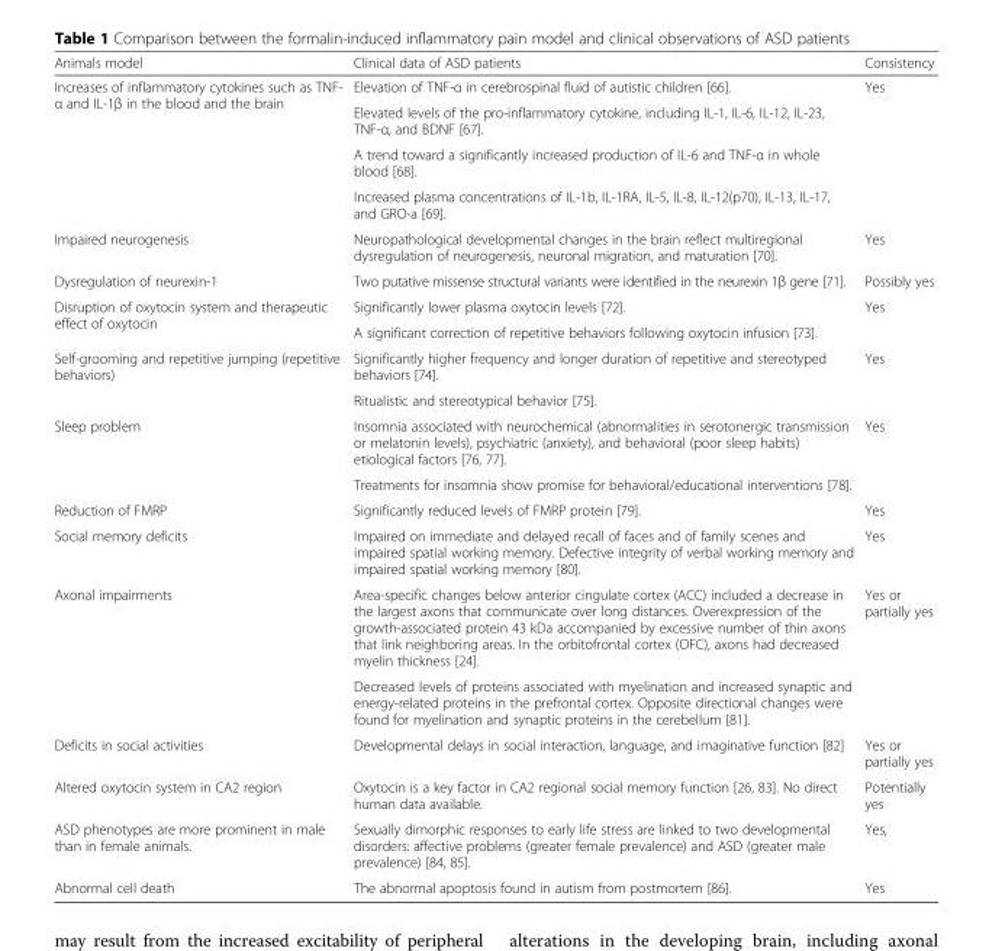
<table><thead><tr><td>Animals model</td><td>Clinical data of ASD patients</td><td>Consistency</td></tr></thead><tbody><tr><td rowspan="4">Increases of inflammatory cytokines such as TNF- α and IL-1β in the blood and the brain</td><td>Elevation of TNF-α in cerebrospinal fluid of autistic children [66].</td><td rowspan="4">Yes</td></tr><tr><td>Elevated levels of the pro-inflammatory cytokine, including IL-1, IL-6, IL-12, IL-23, TNF-α, and BDNF [67].</td></tr><tr><td>A trend toward a significantly increased production of IL-6 and TNF-α in whole blood [68].</td></tr><tr><td>Increased plasma concentrations of IL-1b, IL-1RA, IL-5, IL-8, IL-12(p70), IL-13, IL-17, and GRO-a [69].</td></tr><tr><td>Impaired neurogenesis</td><td>Neuropathological developmental changes in the brain reflect multiregional dysregulation of neurogenesis, neuronal migration, and maturation [70].</td><td>Yes</td></tr><tr><td>Dysregulation of neurexin-1</td><td>Two putative missense structural variants were identified in the neurexin 1β gene [71].</td><td>Possibly yes</td></tr><tr><td rowspan="2">Disruption of oxytocin system and therapeutic effect of oxytocin</td><td>Significantly lower plasma oxytocin levels [72].</td><td rowspan="2">Yes</td></tr><tr><td>A significant correction of repetitive behaviors following oxytocin infusion [73].</td></tr><tr><td rowspan="2">Self-grooming and repetitive jumping (repetitive behaviors)</td><td>Significantly higher frequency and longer duration of repetitive and stereotyped behaviors [74].</td><td rowspan="2">Yes</td></tr><tr><td>Ritualistic and stereotypical behavior [75].</td></tr><tr><td rowspan="2">Sleep problem</td><td>Insomnia associated with neurochemical (abnormalities in serotonergic transmission or melatonin levels), psychiatric (anxiety), and behavioral (poor sleep habits) etiological factors [76, 77].</td><td rowspan="2">Yes</td></tr><tr><td>Treatments for insomnia show promise for behavioral/educational interventions [78].</td></tr><tr><td>Reduction of FMRP</td><td>Significantly reduced levels of FMRP protein [79].</td><td>Yes</td></tr><tr><td>Social memory deficits</td><td>Impaired on immediate and delayed recall of faces and of family scenes and impaired spatial working memory. Defective integrity of verbal working memory and impaired spatial working memory [80].</td><td>Yes</td></tr><tr><td rowspan="2">Axonal impairments</td><td>Area-specific changes below anterior cingulate cortex (ACC) included a decrease in the largest axons that communicate over long distances. Overexpression of the growth-associated protein 43 kDa accompanied by excessive number of thin axons that link neighboring areas. In the orbitofrontal cortex (OFC), axons had decreased myelin thickness [24].</td><td rowspan="2">Yes or partially yes</td></tr><tr><td>Decreased levels of proteins associated with myelination and increased synaptic and energy-related proteins in the prefrontal cortex. Opposite directional changes were found for myelination and synaptic proteins in the cerebellum [81].</td></tr><tr><td>Deficits in social activities</td><td>Developmental delays in social interaction, language, and imaginative function [82]</td><td>Yes or partially yes</td></tr><tr><td>Altered oxytocin system in CA2 region</td><td>Oxytocin is a key factor in CA2 regional social memory function [26, 83]. No direct human data available.</td><td>Potentially yes</td></tr><tr><td>ASD phenotypes are more prominent in male than in female animals.</td><td>Sexually dimorphic responses to early life stress are linked to two developmental disorders: affective problems (greater female prevalence) and ASD (greater male prevalence) [84, 85].</td><td>Yes,</td></tr><tr><td>Abnormal cell death</td><td>The abnormal apoptosis found in autism from postmortem [86].</td><td>Yes</td></tr></tbody></table>